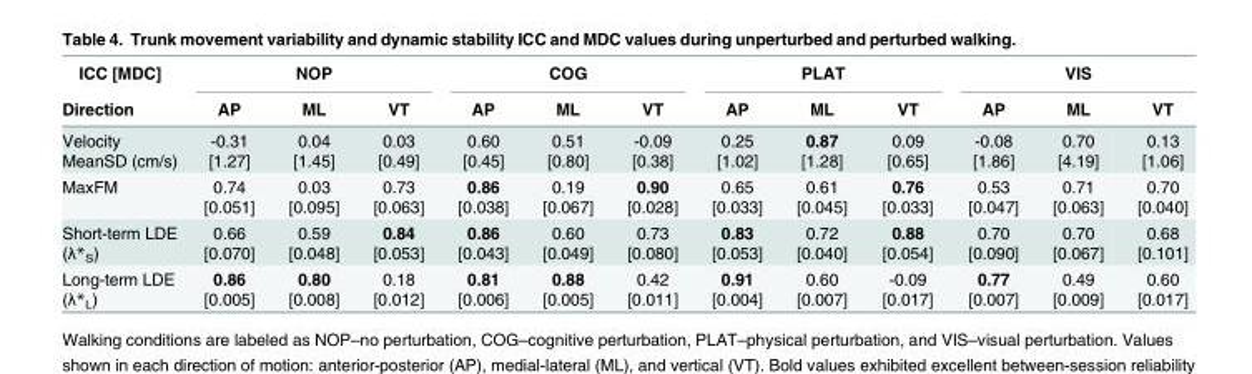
<table><thead><tr><td rowspan="2">ICC [MDC] Direction</td><td colspan="3">NOP</td><td colspan="3">COG</td><td colspan="3">PLAT</td><td colspan="3">VIS</td></tr><tr><td>AP</td><td>ML</td><td>VT</td><td>AP</td><td>ML</td><td>VT</td><td>AP</td><td>ML</td><td>VT</td><td>AP</td><td>ML</td><td>VT</td></tr></thead><tbody><tr><td>Velocity MeanSD (cm/s)</td><td>-0.31 [1.27]</td><td>0.04 [1.45]</td><td>0.03 [0.49]</td><td>0.60 [0.45]</td><td>0.51 [0.80]</td><td>-0.09 [0.38]</td><td>0.25 [1.02]</td><td>0.87 [1.28]</td><td>0.09 [0.65]</td><td>-0.08 [1.86]</td><td>0.70 [4.19]</td><td>0.13 [1.06]</td></tr><tr><td>MaxFM</td><td>0.74 [0.051]</td><td>0.03 [0.095]</td><td>0.73 [0.063]</td><td>0.86 [0.038]</td><td>0.19 [0.067]</td><td>0.90 [0.028]</td><td>0.65 [0.033]</td><td>0.61 [0.045]</td><td>0.76 [0.033]</td><td>0.53 [0.047]</td><td>0.71 [0.063]</td><td>0.70 [0.040]</td></tr><tr><td>Short-term LDE (λ*<sub>S</sub>)</td><td>0.66 [0.070]</td><td>0.59 [0.048]</td><td>0.84 [0.053]</td><td>0.86 [0.043]</td><td>0.60 [0.049]</td><td>0.73 [0.080]</td><td>0.83 [0.053]</td><td>0.72 [0.040]</td><td>0.88 [0.054]</td><td>0.70 [0.090]</td><td>0.70 [0.067]</td><td>0.68 [0.101]</td></tr><tr><td>Long-term LDE (λ*<sub>L</sub>)</td><td>0.86 [0.005]</td><td>0.80 [0.008]</td><td>0.18 [0.012]</td><td>0.81 [0.006]</td><td>0.88 [0.005]</td><td>0.42 [0.011]</td><td>0.91 [0.004]</td><td>0.60 [0.007]</td><td>-0.09 [0.017]</td><td>0.77 [0.007]</td><td>0.49 [0.009]</td><td>0.60 [0.017]</td></tr></tbody></table>